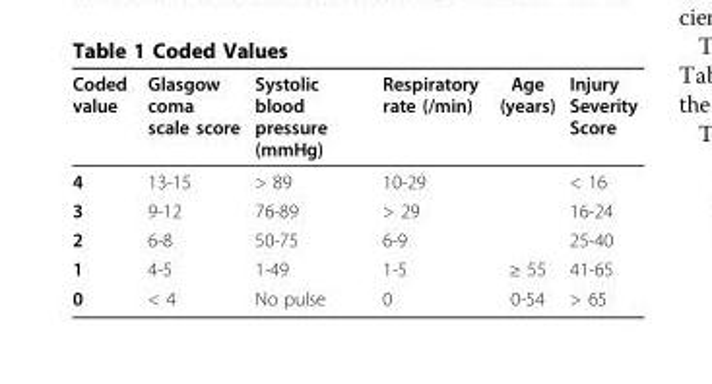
<table><thead><tr><td>Coded value</td><td>Glasgow coma scale score</td><td>Systolic blood pressure (mmHg)</td><td>Respiratory rate (/min)</td><td>Age (years)</td><td>Injury Severity Score</td></tr></thead><tbody><tr><td>4</td><td>13-15</td><td>&gt; 89</td><td>10-29</td><td></td><td>&lt; 16</td></tr><tr><td>3</td><td>9-12</td><td>76-89</td><td>&gt; 29</td><td></td><td>16-24</td></tr><tr><td>2</td><td>6-8</td><td>50-75</td><td>6-9</td><td></td><td>25-40</td></tr><tr><td>1</td><td>4-5</td><td>1-49</td><td>1-5</td><td>≥ 55</td><td>41-65</td></tr><tr><td>0</td><td>&lt; 4</td><td>No pulse</td><td>0</td><td>0-54</td><td>&gt; 65</td></tr></tbody></table>